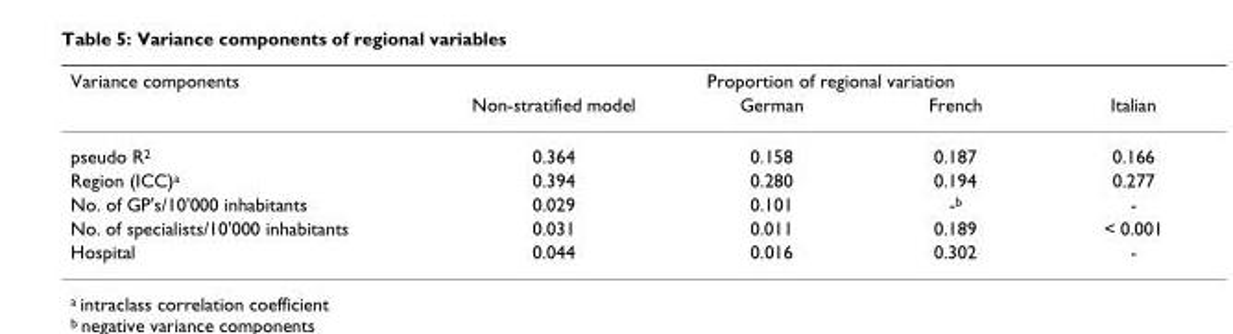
<table><thead><tr><td rowspan="2">Variance components</td><td colspan="4">Proportion of regional variation</td></tr><tr><td>Non-stratified model</td><td>German</td><td>French</td><td>Italian</td></tr></thead><tbody><tr><td>pseudo R<sup>2</sup></td><td>0.364</td><td>0.158</td><td>0.187</td><td>0.166</td></tr><tr><td>Region (ICC)<sup>a</sup></td><td>0.394</td><td>0.280</td><td>0.194</td><td>0.277</td></tr><tr><td>No. of GP&#x27;s/10&#x27;000 inhabitants</td><td>0.029</td><td>0.101</td><td>-<sup>b</sup></td><td>-</td></tr><tr><td>No. of specialists/10&#x27;000 inhabitants</td><td>0.031</td><td>0.011</td><td>0.189</td><td>&lt; 0.001</td></tr><tr><td>Hospital</td><td>0.044</td><td>0.016</td><td>0.302</td><td>-</td></tr></tbody></table>